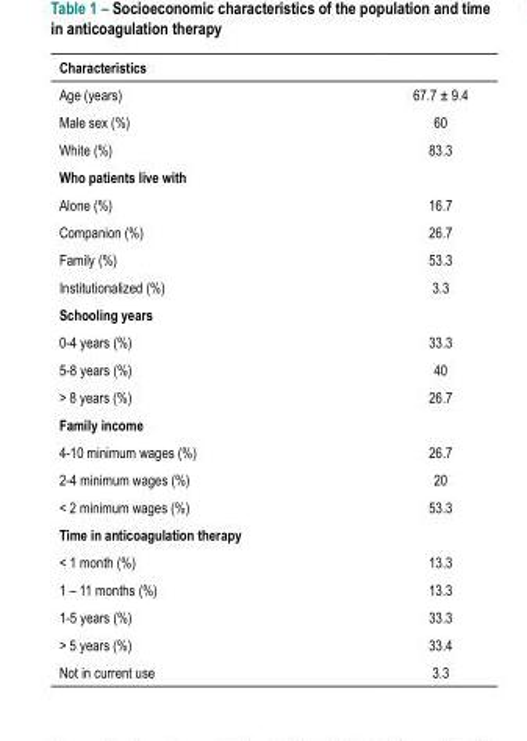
<table><thead><tr><td>Characteristics</td><td></td></tr></thead><tbody><tr><td>Age (years)</td><td>67.7 ± 9.4</td></tr><tr><td>Male sex (%)</td><td>60</td></tr><tr><td>White (%)</td><td>83.3</td></tr><tr><td colspan="2">Who patients live with</td></tr><tr><td>Alone (%)</td><td>16.7</td></tr><tr><td>Companion (%)</td><td>26.7</td></tr><tr><td>Family (%)</td><td>53.3</td></tr><tr><td>Institutionalized (%)</td><td>3.3</td></tr><tr><td colspan="2">Schooling years</td></tr><tr><td>0-4 years (%)</td><td>33.3</td></tr><tr><td>5-8 years (%)</td><td>40</td></tr><tr><td>&gt; 8 years (%)</td><td>26.7</td></tr><tr><td colspan="2">Family income</td></tr><tr><td>4-10 minimum wages (%)</td><td>26.7</td></tr><tr><td>2-4 minimum wages (%)</td><td>20</td></tr><tr><td>&lt; 2 minimum wages (%)</td><td>53.3</td></tr><tr><td colspan="2">Time in anticoagulation therapy</td></tr><tr><td>&lt; 1 month (%)</td><td>13.3</td></tr><tr><td>1 – 11 months (%)</td><td>13.3</td></tr><tr><td>1-5 years (%)</td><td>33.3</td></tr><tr><td>&gt; 5 years (%)</td><td>33.4</td></tr><tr><td>Not in current use</td><td>3.3</td></tr></tbody></table>